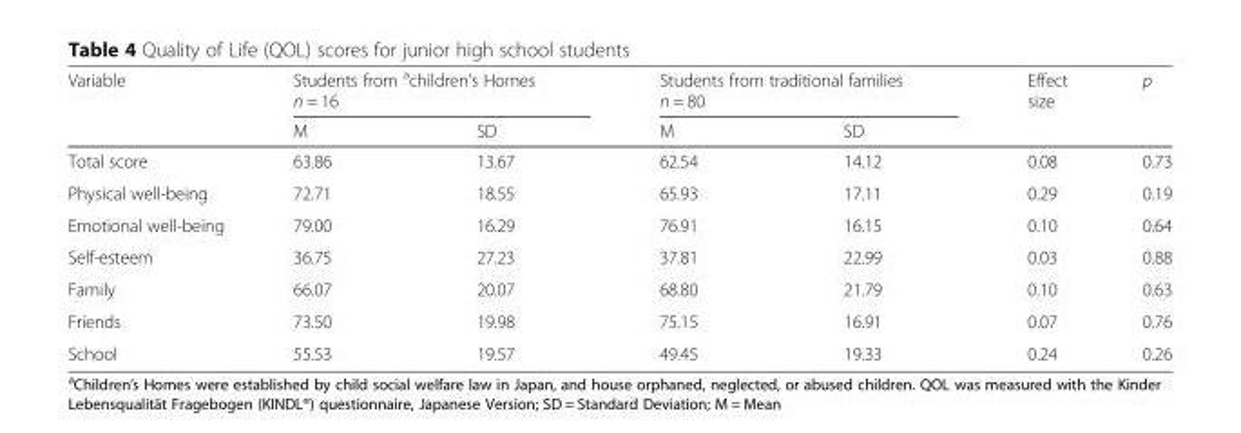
<table><thead><tr><td rowspan="2">Variable</td><td colspan="2">Students from <sup>a</sup>children’s Homes n = 16</td><td colspan="2">Students from traditional families n = 80</td><td rowspan="2">Effect size</td><td rowspan="2">p</td></tr><tr><td>M</td><td>SD</td><td>M</td><td>SD</td></tr></thead><tbody><tr><td>Total score</td><td>63.86</td><td>13.67</td><td>62.54</td><td>14.12</td><td>0.08</td><td>0.73</td></tr><tr><td>Physical well-being</td><td>72.71</td><td>18.55</td><td>65.93</td><td>17.11</td><td>0.29</td><td>0.19</td></tr><tr><td>Emotional well-being</td><td>79.00</td><td>16.29</td><td>76.91</td><td>16.15</td><td>0.10</td><td>0.64</td></tr><tr><td>Self-esteem</td><td>36.75</td><td>27.23</td><td>37.81</td><td>22.99</td><td>0.03</td><td>0.88</td></tr><tr><td>Family</td><td>66.07</td><td>20.07</td><td>68.80</td><td>21.79</td><td>0.10</td><td>0.63</td></tr><tr><td>Friends</td><td>73.50</td><td>19.98</td><td>75.15</td><td>16.91</td><td>0.07</td><td>0.76</td></tr><tr><td>School</td><td>55.53</td><td>19.57</td><td>49.45</td><td>19.33</td><td>0.24</td><td>0.26</td></tr></tbody></table>